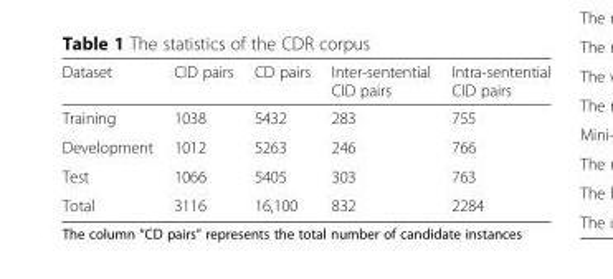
<table><thead><tr><td>Dataset</td><td>CID pairs</td><td>CD pairs</td><td>Inter-sentential CID pairs</td><td>Intra-sentential CID pairs</td></tr></thead><tbody><tr><td>Training</td><td>1038</td><td>5432</td><td>283</td><td>755</td></tr><tr><td>Development</td><td>1012</td><td>5263</td><td>246</td><td>766</td></tr><tr><td>Test</td><td>1066</td><td>5405</td><td>303</td><td>763</td></tr><tr><td>Total</td><td>3116</td><td>16,100</td><td>832</td><td>2284</td></tr></tbody></table>